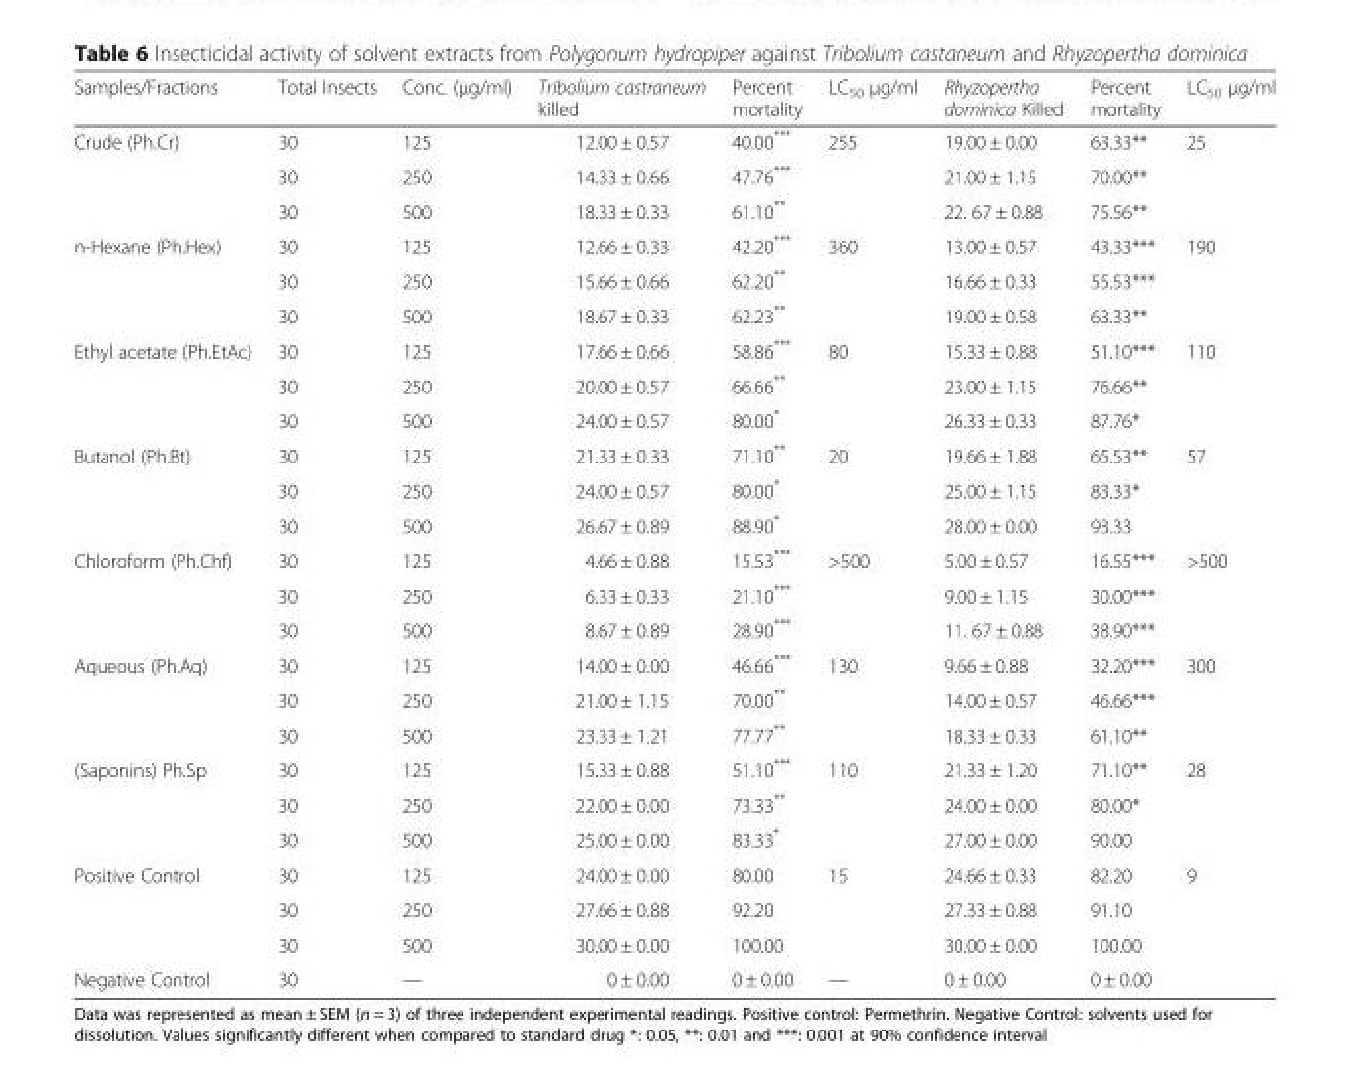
<table><thead><tr><td>Samples/Fractions</td><td>Total Insects</td><td>Conc. (μg/ml)</td><td>Tribolium castraneum killed</td><td>Percent mortality</td><td>LC<sub>50</sub> μg/ml</td><td>Rhyzopertha dominica Killed</td><td>Percent mortality</td><td>LC<sub>50</sub> μg/ml</td></tr></thead><tbody><tr><td rowspan="3">Crude (Ph.Cr)</td><td>30</td><td>125</td><td>12.00 ± 0.57</td><td>40.00***</td><td rowspan="3">255</td><td>19.00 ± 0.00</td><td>63.33**</td><td rowspan="3">25</td></tr><tr><td>30</td><td>250</td><td>14.33 ± 0.66</td><td>47.76***</td><td>21.00 ± 1.15</td><td>70.00**</td></tr><tr><td>30</td><td>500</td><td>18.33 ± 0.33</td><td>61.10**</td><td>22. 67 ± 0.88</td><td>75.56**</td></tr><tr><td rowspan="3">n-Hexane (Ph.Hex)</td><td>30</td><td>125</td><td>12.66 ± 0.33</td><td>42.20***</td><td rowspan="3">360</td><td>13.00 ± 0.57</td><td>43.33***</td><td rowspan="3">190</td></tr><tr><td>30</td><td>250</td><td>15.66 ± 0.66</td><td>62.20**</td><td>16.66 ± 0.33</td><td>55.53***</td></tr><tr><td>30</td><td>500</td><td>18.67 ± 0.33</td><td>62.23**</td><td>19.00 ± 0.58</td><td>63.33**</td></tr><tr><td rowspan="3">Ethyl acetate (Ph.EtAc)</td><td>30</td><td>125</td><td>17.66 ± 0.66</td><td>58.86***</td><td rowspan="3">80</td><td>15.33 ± 0.88</td><td>51.10***</td><td rowspan="3">110</td></tr><tr><td>30</td><td>250</td><td>20.00 ± 0.57</td><td>66.66**</td><td>23.00 ± 1.15</td><td>76.66**</td></tr><tr><td>30</td><td>500</td><td>24.00 ± 0.57</td><td>80.00*</td><td>26.33 ± 0.33</td><td>87.76*</td></tr><tr><td rowspan="3">Butanol (Ph.Bt)</td><td>30</td><td>125</td><td>21.33 ± 0.33</td><td>71.10**</td><td rowspan="3">20</td><td>19.66 ± 1.88</td><td>65.53**</td><td rowspan="3">57</td></tr><tr><td>30</td><td>250</td><td>24.00 ± 0.57</td><td>80.00*</td><td>25.00 ± 1.15</td><td>83.33*</td></tr><tr><td>30</td><td>500</td><td>26.67 ± 0.89</td><td>88.90*</td><td>28.00 ± 0.00</td><td>93.33</td></tr><tr><td rowspan="3">Chloroform (Ph.Chf)</td><td>30</td><td>125</td><td>4.66 ± 0.88</td><td>15.53***</td><td rowspan="3">&gt;500</td><td>5.00 ± 0.57</td><td>16.55***</td><td rowspan="3">&gt;500</td></tr><tr><td>30</td><td>250</td><td>6.33 ± 0.33</td><td>21.10***</td><td>9.00 ± 1.15</td><td>30.00***</td></tr><tr><td>30</td><td>500</td><td>8.67 ± 0.89</td><td>28.90***</td><td>11. 67 ± 0.88</td><td>38.90***</td></tr><tr><td rowspan="3">Aqueous (Ph.Aq)</td><td>30</td><td>125</td><td>14.00 ± 0.00</td><td>46.66***</td><td rowspan="3">130</td><td>9.66 ± 0.88</td><td>32.20***</td><td rowspan="3">300</td></tr><tr><td>30</td><td>250</td><td>21.00 ± 1.15</td><td>70.00**</td><td>14.00 ± 0.57</td><td>46.66***</td></tr><tr><td>30</td><td>500</td><td>23.33 ± 1.21</td><td>77.77**</td><td>18.33 ± 0.33</td><td>61.10**</td></tr><tr><td rowspan="3">(Saponins) Ph.Sp</td><td>30</td><td>125</td><td>15.33 ± 0.88</td><td>51.10***</td><td rowspan="3">110</td><td>21.33 ± 1.20</td><td>71.10**</td><td rowspan="3">28</td></tr><tr><td>30</td><td>250</td><td>22.00 ± 0.00</td><td>73.33**</td><td>24.00 ± 0.00</td><td>80.00*</td></tr><tr><td>30</td><td>500</td><td>25.00 ± 0.00</td><td>83.33*</td><td>27.00 ± 0.00</td><td>90.00</td></tr><tr><td rowspan="3">Positive Control</td><td>30</td><td>125</td><td>24.00 ± 0.00</td><td>80.00</td><td rowspan="3">15</td><td>24.66 ± 0.33</td><td>82.20</td><td rowspan="3">9</td></tr><tr><td>30</td><td>250</td><td>27.66 ± 0.88</td><td>92.20</td><td>27.33 ± 0.88</td><td>91.10</td></tr><tr><td>30</td><td>500</td><td>30.00 ± 0.00</td><td>100.00</td><td>30.00 ± 0.00</td><td>100.00</td></tr><tr><td>Negative Control</td><td>30</td><td>—</td><td>0 ± 0.00</td><td>0 ± 0.00</td><td>—</td><td>0 ± 0.00</td><td>0 ± 0.00</td><td></td></tr></tbody></table>